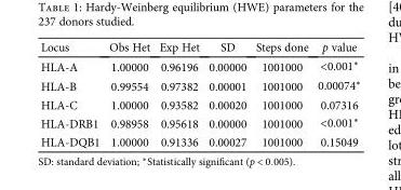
<table><thead><tr><td>Locus</td><td>Obs Het</td><td>Exp Het</td><td>SD</td><td>Steps done</td><td>p value</td></tr></thead><tbody><tr><td>HLA-A</td><td>1.00000</td><td>0.96196</td><td>0.00000</td><td>1001000</td><td>&lt;0.001∗</td></tr><tr><td>HLA-B</td><td>0.99554</td><td>0.97382</td><td>0.00001</td><td>1001000</td><td>0.00074∗</td></tr><tr><td>HLA-C</td><td>1.00000</td><td>0.93582</td><td>0.00020</td><td>1001000</td><td>0.07316</td></tr><tr><td>HLA-DRB1</td><td>0.98958</td><td>0.95618</td><td>0.00000</td><td>1001000</td><td>&lt;0.001∗</td></tr><tr><td>HLA-DQB1</td><td>1.00000</td><td>0.91336</td><td>0.00027</td><td>1001000</td><td>0.15049</td></tr></tbody></table>